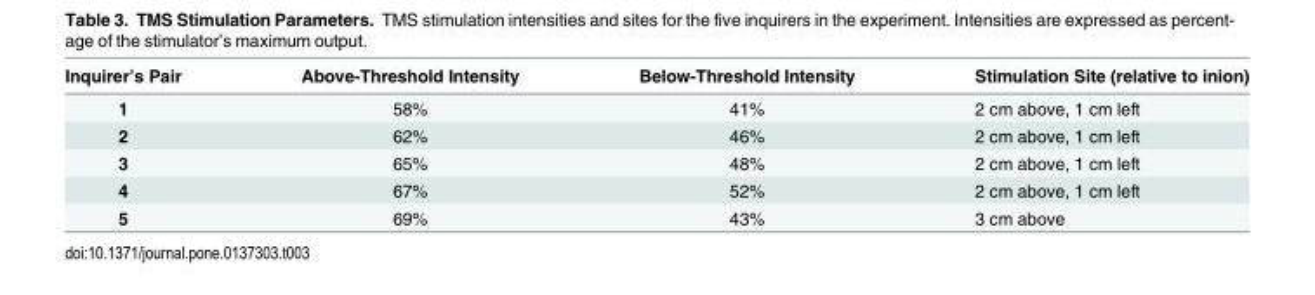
<table><thead><tr><td>Inquirer’s Pair</td><td>Above-Threshold Intensity</td><td>Below-Threshold Intensity</td><td>Stimulation Site (relative to inion)</td></tr></thead><tbody><tr><td>1</td><td>58%</td><td>41%</td><td>2 cm above, 1 cm left</td></tr><tr><td>2</td><td>62%</td><td>46%</td><td>2 cm above, 1 cm left</td></tr><tr><td>3</td><td>65%</td><td>48%</td><td>2 cm above, 1 cm left</td></tr><tr><td>4</td><td>67%</td><td>52%</td><td>2 cm above, 1 cm left</td></tr><tr><td>5</td><td>69%</td><td>43%</td><td>3 cm above</td></tr></tbody></table>